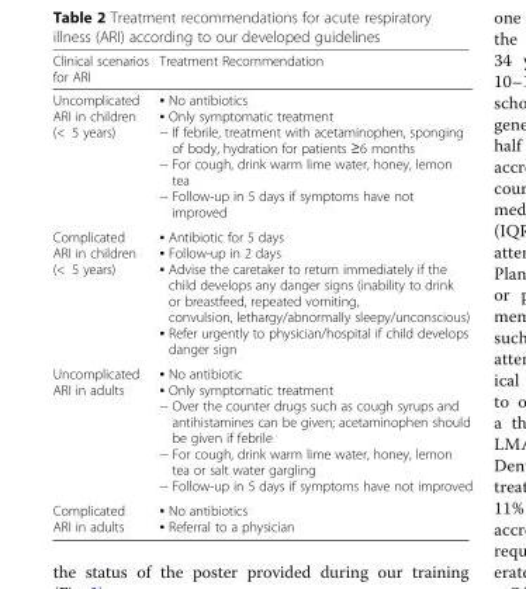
<table><thead><tr><td>Clinical scenarios for ARI</td><td>Treatment Recommendation</td></tr></thead><tbody><tr><td>Uncomplicated ARI in children (&lt; 5 years)</td><td>▪ No antibiotics ▪ Only symptomatic treatment -- If febrile, treatment with acetaminophen, sponging of body, hydration for patients ≥6 months -- For cough, drink warm lime water, honey, lemon tea -- Follow-up in 5 days if symptoms have not improved</td></tr><tr><td>Complicated ARI in children (&lt; 5 years)</td><td>▪ Antibiotic for 5 days ▪ Follow-up in 2 days ▪ Advise the caretaker to return immediately if the child develops any danger signs (inability to drink or breastfeed, repeated vomiting, convulsion, lethargy/abnormally sleepy/unconscious) ▪ Refer urgently to physician/hospital if child develops danger sign</td></tr><tr><td>Uncomplicated ARI in adults</td><td>▪ No antibiotic ▪ Only symptomatic treatment -- Over the counter drugs such as cough syrups and antihistamines can be given; acetaminophen should be given if febrile -- For cough, drink warm lime water, honey, lemon tea or salt water gargling -- Follow-up in 5 days if symptoms have not improved</td></tr><tr><td>Complicated ARI in adults</td><td>▪ No antibiotics ▪ Referral to a physician</td></tr></tbody></table>